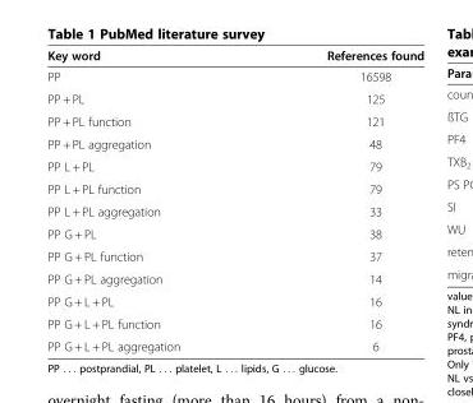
<table><thead><tr><td>Key word</td><td>References found</td></tr></thead><tbody><tr><td>PP</td><td>16598</td></tr><tr><td>PP + PL</td><td>125</td></tr><tr><td>PP + PL function</td><td>121</td></tr><tr><td>PP + PL aggregation</td><td>48</td></tr><tr><td>PP L + PL</td><td>79</td></tr><tr><td>PP L + PL function</td><td>79</td></tr><tr><td>PP L + PL aggregation</td><td>33</td></tr><tr><td>PP G + PL</td><td>38</td></tr><tr><td>PP G + PL function</td><td>37</td></tr><tr><td>PP G + PL aggregation</td><td>14</td></tr><tr><td>PP G + L + PL</td><td>16</td></tr><tr><td>PP G + L + PL function</td><td>16</td></tr><tr><td>PP G + L + PL aggregation</td><td>6</td></tr></tbody></table>